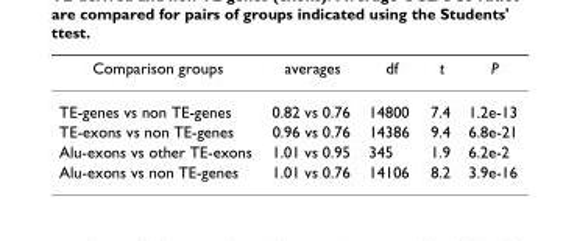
<table><thead><tr><td>Comparison groups</td><td>averages</td><td>df</td><td>t</td><td>P</td></tr></thead><tbody><tr><td>TE-genes vs non TE-genes</td><td>0.82 vs 0.76</td><td>14800</td><td>7.4</td><td>1.2e-13</td></tr><tr><td>TE-exons vs non TE-genes</td><td>0.96 vs 0.76</td><td>14386</td><td>9.4</td><td>6.8e-21</td></tr><tr><td>Alu-exons vs other TE-exons</td><td>1.01 vs 0.95</td><td>345</td><td>1.9</td><td>6.2e-2</td></tr><tr><td>Alu-exons vs non TE-genes</td><td>1.01 vs 0.76</td><td>14106</td><td>8.2</td><td>3.9e-16</td></tr></tbody></table>